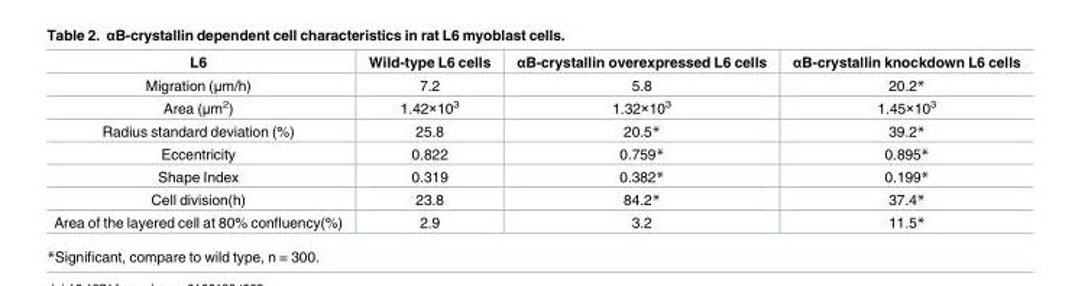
<table><thead><tr><td>L6</td><td>Wild-type L6 cells</td><td>αB-crystallin overexpressed L6 cells</td><td>αB-crystallin knockdown L6 cells</td></tr></thead><tbody><tr><td>Migration (μm/h)</td><td>7.2</td><td>5.8</td><td>20.2*</td></tr><tr><td>Area (μm<sup>2</sup>)</td><td>1.42×10<sup>3</sup></td><td>1.32×10<sup>3</sup></td><td>1.45×10<sup>3</sup></td></tr><tr><td>Radius standard deviation (%)</td><td>25.8</td><td>20.5*</td><td>39.2*</td></tr><tr><td>Eccentricity</td><td>0.822</td><td>0.759*</td><td>0.895*</td></tr><tr><td>Shape Index</td><td>0.319</td><td>0.382*</td><td>0.199*</td></tr><tr><td>Cell division(h)</td><td>23.8</td><td>84.2*</td><td>37.4*</td></tr><tr><td>Area of the layered cell at 80% confluency(%)</td><td>2.9</td><td>3.2</td><td>11.5*</td></tr></tbody></table>